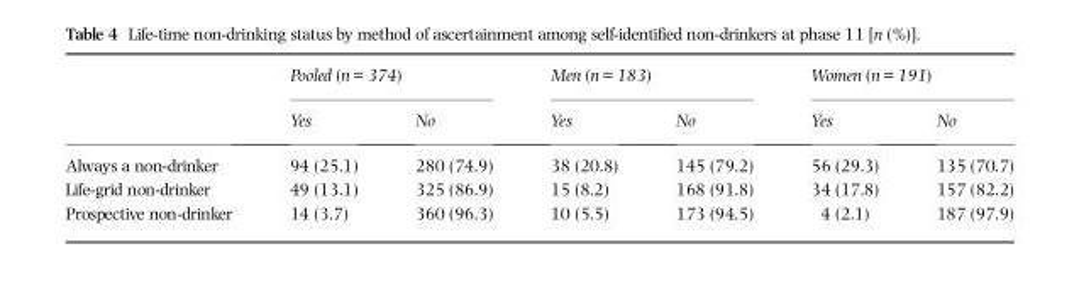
<table><thead><tr><td rowspan="2"></td><td colspan="2">Pooled (n = 374)</td><td colspan="2">Men (n = 183)</td><td colspan="2">Women (n = 191)</td></tr><tr><td>Yes</td><td>No</td><td>Yes</td><td>No</td><td>Yes</td><td>No</td></tr></thead><tbody><tr><td>Always a non-drinker</td><td>94 (25.1)</td><td>280 (74.9)</td><td>38 (20.8)</td><td>145 (79.2)</td><td>56 (29.3)</td><td>135 (70.7)</td></tr><tr><td>Life-grid non-drinker</td><td>49 (13.1)</td><td>325 (86.9)</td><td>15 (8.2)</td><td>168 (91.8)</td><td>34 (17.8)</td><td>157 (82.2)</td></tr><tr><td>Prospective non-drinker</td><td>14 (3.7)</td><td>360 (96.3)</td><td>10 (5.5)</td><td>173 (94.5)</td><td>4 (2.1)</td><td>187 (97.9)</td></tr></tbody></table>